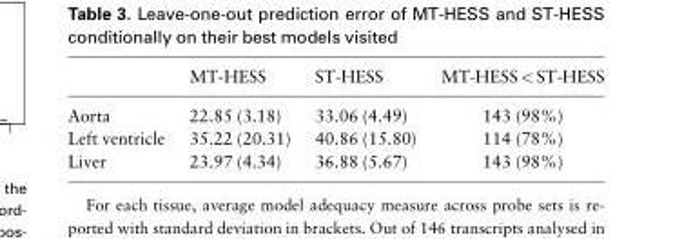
<table><thead><tr><td></td><td>MT-HESS</td><td>ST-HESS</td><td>MT-HESS &lt; ST-HESS</td></tr></thead><tbody><tr><td>Aorta</td><td>22.85 (3.18)</td><td>33.06 (4.49)</td><td>143 (98%)</td></tr><tr><td>Left ventricle</td><td>35.22 (20.31)</td><td>40.86 (15.80)</td><td>114 (78%)</td></tr><tr><td>Liver</td><td>23.97 (4.34)</td><td>36.88 (5.67)</td><td>143 (98%)</td></tr></tbody></table>